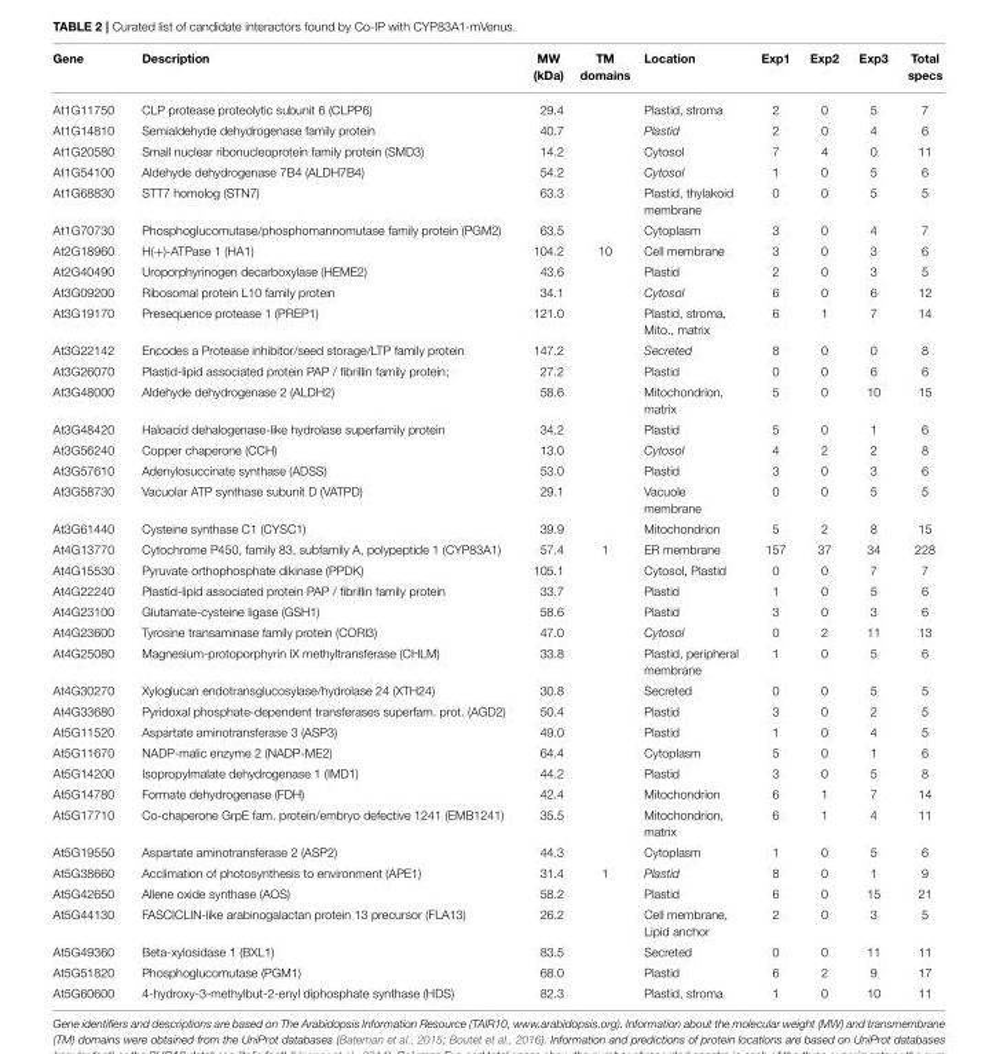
<table><thead><tr><td>Gene</td><td>Description</td><td>MW (kDa)</td><td>TM domains</td><td>Location</td><td>Exp1</td><td>Exp2</td><td>Exp3</td><td>Total specs</td></tr></thead><tbody><tr><td>At1G11750</td><td>CLP protease proteolytic subunit 6 (CLPP6)</td><td>29.4</td><td></td><td>Plastid, stroma</td><td>2</td><td>0</td><td>5</td><td>7</td></tr><tr><td>At1G14810</td><td>Semialdehyde dehydrogenase family protein</td><td>40.7</td><td></td><td>Plastid</td><td>2</td><td>0</td><td>4</td><td>6</td></tr><tr><td>At1G20580</td><td>Small nuclear ribonucleoprotein family protein (SMD3)</td><td>14.2</td><td></td><td>Cytosol</td><td>7</td><td>4</td><td>0</td><td>11</td></tr><tr><td>At1G54100</td><td>Aldehyde dehydrogenase 7B4 (ALDH7B4)</td><td>54.2</td><td></td><td>Cytosol</td><td>1</td><td>0</td><td>5</td><td>6</td></tr><tr><td>At1G68830</td><td>STT7 homolog (STN7)</td><td>63.3</td><td></td><td>Plastid, thylakoid membrane</td><td>0</td><td>0</td><td>5</td><td>5</td></tr><tr><td>At1G70730</td><td>Phosphoglucomutase/phosphomannomutase family protein (PGM2)</td><td>63.5</td><td></td><td>Cytoplasm</td><td>3</td><td>0</td><td>4</td><td>7</td></tr><tr><td>At2G18960</td><td>H(+)-ATPase 1 (HA1)</td><td>104.2</td><td>10</td><td>Cell membrane</td><td>3</td><td>0</td><td>3</td><td>6</td></tr><tr><td>At2G40490</td><td>Uroporphyrinogen decarboxylase (HEME2)</td><td>43.6</td><td></td><td>Plastid</td><td>2</td><td>0</td><td>3</td><td>5</td></tr><tr><td>At3G09200</td><td>Ribosomal protein L10 family protein</td><td>34.1</td><td></td><td>Cytosol</td><td>6</td><td>0</td><td>6</td><td>12</td></tr><tr><td>At3G19170</td><td>Presequence protease 1 (PREP1)</td><td>121.0</td><td></td><td>Plastid, stroma, Mito., matrix</td><td>6</td><td>1</td><td>7</td><td>14</td></tr><tr><td>At3G22142</td><td>Encodes a Protease inhibitor/seed storage/LTP family protein</td><td>147.2</td><td></td><td>Secreted</td><td>8</td><td>0</td><td>0</td><td>8</td></tr><tr><td>At3G26070</td><td>Plastid-lipid associated protein PAP / fibrillin family protein;</td><td>27.2</td><td></td><td>Plastid</td><td>0</td><td>0</td><td>6</td><td>6</td></tr><tr><td>At3G48000</td><td>Aldehyde dehydrogenase 2 (ALDH2)</td><td>58.6</td><td></td><td>Mitochondrion, matrix</td><td>5</td><td>0</td><td>10</td><td>15</td></tr><tr><td>At3G48420</td><td>Haloacid dehalogenase-like hydrolase superfamily protein</td><td>34.2</td><td></td><td>Plastid</td><td>5</td><td>0</td><td>1</td><td>6</td></tr><tr><td>At3G56240</td><td>Copper chaperone (CCH)</td><td>13.0</td><td></td><td>Cytosol</td><td>4</td><td>2</td><td>2</td><td>8</td></tr><tr><td>At3G57610</td><td>Adenylosuccinate synthase (ADSS)</td><td>53.0</td><td></td><td>Plastid</td><td>3</td><td>0</td><td>3</td><td>6</td></tr><tr><td>At3G58730</td><td>Vacuolar ATP synthase subunit D (VATPD)</td><td>29.1</td><td></td><td>Vacuole membrane</td><td>0</td><td>0</td><td>5</td><td>5</td></tr><tr><td>At3G61440</td><td>Cysteine synthase C1 (CYSC1)</td><td>39.9</td><td></td><td>Mitochondrion</td><td>5</td><td>2</td><td>8</td><td>15</td></tr><tr><td>At4G13770</td><td>Cytochrome P450, family 83, subfamily A, polypeptide 1 (CYP83A1)</td><td>57.4</td><td>1</td><td>ER membrane</td><td>157</td><td>37</td><td>34</td><td>228</td></tr><tr><td>At4G15530</td><td>Pyruvate orthophosphate dikinase (PPDK)</td><td>105.1</td><td></td><td>Cytosol, Plastid</td><td>0</td><td>0</td><td>7</td><td>7</td></tr><tr><td>At4G22240</td><td>Plastid-lipid associated protein PAP / fibrillin family protein</td><td>33.7</td><td></td><td>Plastid</td><td>1</td><td>0</td><td>5</td><td>6</td></tr><tr><td>At4G23100</td><td>Glutamate-cysteine ligase (GSH1)</td><td>58.6</td><td></td><td>Plastid</td><td>3</td><td>0</td><td>3</td><td>6</td></tr><tr><td>At4G23600</td><td>Tyrosine transaminase family protein (CORI3)</td><td>47.0</td><td></td><td>Cytosol</td><td>0</td><td>2</td><td>11</td><td>13</td></tr><tr><td>At4G25080</td><td>Magnesium-protoporphyrin IX methyltransferase (CHLM)</td><td>33.8</td><td></td><td>Plastid, peripheral membrane</td><td>1</td><td>0</td><td>5</td><td>6</td></tr><tr><td>At4G30270</td><td>Xyloglucan endotransglucosylase/hydrolase 24 (XTH24)</td><td>30.8</td><td></td><td>Secreted</td><td>0</td><td>0</td><td>5</td><td>5</td></tr><tr><td>At4G33680</td><td>Pyridoxal phosphate-dependent transferases superfam. prot. (AGD2)</td><td>50.4</td><td></td><td>Plastid</td><td>3</td><td>0</td><td>2</td><td>5</td></tr><tr><td>At5G11520</td><td>Aspartate aminotransferase 3 (ASP3)</td><td>49.0</td><td></td><td>Plastid</td><td>1</td><td>0</td><td>4</td><td>5</td></tr><tr><td>At5G11670</td><td>NADP-malic enzyme 2 (NADP-ME2)</td><td>64.4</td><td></td><td>Cytoplasm</td><td>5</td><td>0</td><td>1</td><td>6</td></tr><tr><td>At5G14200</td><td>Isopropylmalate dehydrogenase 1 (IMD1)</td><td>44.2</td><td></td><td>Plastid</td><td>3</td><td>0</td><td>5</td><td>8</td></tr><tr><td>At5G14780</td><td>Formate dehydrogenase (FDH)</td><td>42.4</td><td></td><td>Mitochondrion</td><td>6</td><td>1</td><td>7</td><td>14</td></tr><tr><td>At5G17710</td><td>Co-chaperone GrpE fam. protein/embryo defective 1241 (EMB1241)</td><td>35.5</td><td></td><td>Mitochondrion, matrix</td><td>6</td><td>1</td><td>4</td><td>11</td></tr><tr><td>At5G19550</td><td>Aspartate aminotransferase 2 (ASP2)</td><td>44.3</td><td></td><td>Cytoplasm</td><td>1</td><td>0</td><td>5</td><td>6</td></tr><tr><td>At5G38660</td><td>Acclimation of photosynthesis to environment (APE1)</td><td>31.4</td><td>1</td><td>Plastid</td><td>8</td><td>0</td><td>1</td><td>9</td></tr><tr><td>At5G42650</td><td>Allene oxide synthase (AOS)</td><td>58.2</td><td></td><td>Plastid</td><td>6</td><td>0</td><td>15</td><td>21</td></tr><tr><td>At5G44130</td><td>FASCICLIN-like arabinogalactan protein 13 precursor (FLA13)</td><td>26.2</td><td></td><td>Cell membrane, Lipid anchor</td><td>2</td><td>0</td><td>3</td><td>5</td></tr><tr><td>At5G49360</td><td>Beta-xylosidase 1 (BXL1)</td><td>83.5</td><td></td><td>Secreted</td><td>0</td><td>0</td><td>11</td><td>11</td></tr><tr><td>At5G51820</td><td>Phosphoglucomutase (PGM1)</td><td>68.0</td><td></td><td>Plastid</td><td>6</td><td>2</td><td>9</td><td>17</td></tr><tr><td>At5G60600</td><td>4-hydroxy-3-methylbut-2-enyl diphosphate synthase (HDS)</td><td>82.3</td><td></td><td>Plastid, stroma</td><td>1</td><td>0</td><td>10</td><td>11</td></tr></tbody></table>